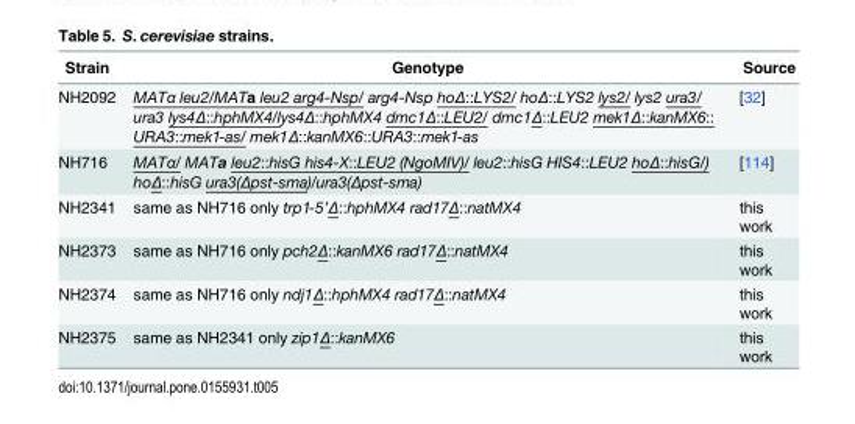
<table><thead><tr><td>Strain</td><td>Genotype</td><td>Source</td></tr></thead><tbody><tr><td>NH2092</td><td>MATα leu2/MATa leu2 arg4-Nsp/ arg4-Nsp hoΔ::LYS2/ hoΔ::LYS2 lys2/ lys2 ura3/ ura3 lys4Δ::hphMX4/lys4Δ::hphMX4 dmc1Δ::LEU2/ dmc1Δ::LEU2 mek1Δ::kanMX6:: URA3::mek1-as/ mek1Δ::kanMX6::URA3::mek1-as</td><td>[32]</td></tr><tr><td>NH716</td><td>MATα/ MATa leu2::hisG his4-X::LEU2 (NgoMIV)/ leu2::hisG HIS4::LEU2 hoΔ::hisG/) hoΔ::hisG ura3(Δpst-sma)/ura3(Δpst-sma)</td><td>[114]</td></tr><tr><td>NH2341</td><td>same as NH716 only trp1-5’Δ::hphMX4 rad17Δ::natMX4</td><td>this work</td></tr><tr><td>NH2373</td><td>same as NH716 only pch2Δ::kanMX6 rad17Δ::natMX4</td><td>this work</td></tr><tr><td>NH2374</td><td>same as NH716 only ndj1Δ::hphMX4 rad17Δ::natMX4</td><td>this work</td></tr><tr><td>NH2375</td><td>same as NH2341 only zip1Δ::kanMX6</td><td>this work</td></tr></tbody></table>